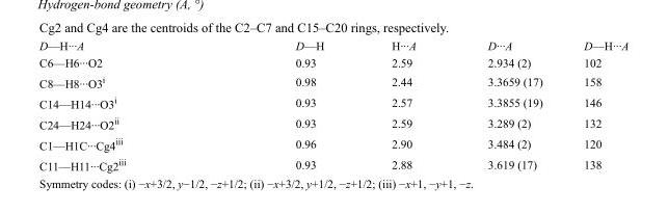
<table><tbody><tr><td>D—H···A</td><td>D—H</td><td>H···A</td><td>D···A</td><td>D—H···A</td></tr><tr><td>C6—H6···O2</td><td>0.93</td><td>2.59</td><td>2.934 (2)</td><td>102</td></tr><tr><td>C8—H8···O3<sup>i</sup></td><td>0.98</td><td>2.44</td><td>3.3659 (17)</td><td>158</td></tr><tr><td>C14—H14···O3<sup>i</sup></td><td>0.93</td><td>2.57</td><td>3.3855 (19)</td><td>146</td></tr><tr><td>C24—H24···O2<sup>ii</sup></td><td>0.93</td><td>2.59</td><td>3.289 (2)</td><td>132</td></tr><tr><td>C1—H1C···Cg4<sup>iii</sup></td><td>0.96</td><td>2.90</td><td>3.484 (2)</td><td>120</td></tr><tr><td>C11—H11···Cg2<sup>iii</sup></td><td>0.93</td><td>2.88</td><td>3.619 (17)</td><td>138</td></tr></tbody></table>